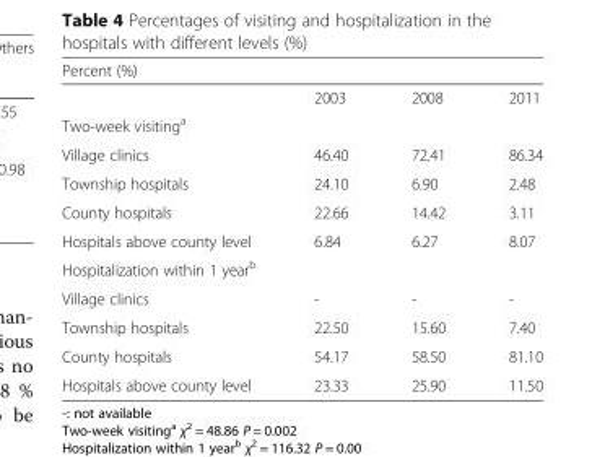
<table><thead><tr><td colspan="4">Percent (%)</td></tr><tr><td></td><td>2003</td><td>2008</td><td>2011</td></tr></thead><tbody><tr><td colspan="4">Two-week visiting<sup>a</sup></td></tr><tr><td>Village clinics</td><td>46.40</td><td>72.41</td><td>86.34</td></tr><tr><td>Township hospitals</td><td>24.10</td><td>6.90</td><td>2.48</td></tr><tr><td>County hospitals</td><td>22.66</td><td>14.42</td><td>3.11</td></tr><tr><td>Hospitals above county level</td><td>6.84</td><td>6.27</td><td>8.07</td></tr><tr><td colspan="4">Hospitalization within 1 year<sup>b</sup></td></tr><tr><td>Village clinics</td><td>-</td><td>-</td><td>-</td></tr><tr><td>Township hospitals</td><td>22.50</td><td>15.60</td><td>7.40</td></tr><tr><td>County hospitals</td><td>54.17</td><td>58.50</td><td>81.10</td></tr><tr><td>Hospitals above county level</td><td>23.33</td><td>25.90</td><td>11.50</td></tr></tbody></table>